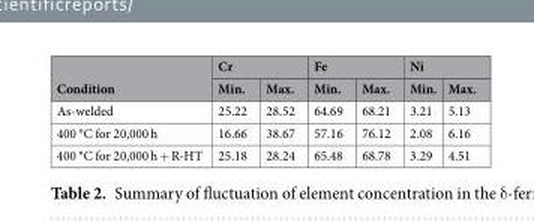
<table><thead><tr><td rowspan="2">Condition</td><td colspan="2">Cr</td><td colspan="2">Fe</td><td colspan="2">Ni</td></tr><tr><td>Min.</td><td>Max.</td><td>Min.</td><td>Max.</td><td>Min.</td><td>Max.</td></tr></thead><tbody><tr><td>As-welded</td><td>25.22</td><td>28.52</td><td>64.69</td><td>68.21</td><td>3.21</td><td>5.13</td></tr><tr><td>400 °C for 20,000 h</td><td>16.66</td><td>38.67</td><td>57.16</td><td>76.12</td><td>2.08</td><td>6.16</td></tr><tr><td>400 °C for 20,000 h + R-HT</td><td>25.18</td><td>28.24</td><td>65.48</td><td>68.78</td><td>3.29</td><td>4.51</td></tr></tbody></table>